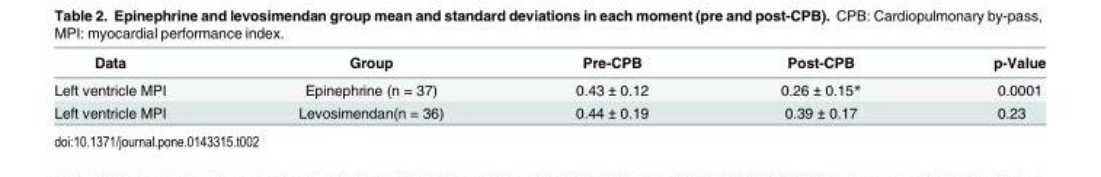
<table><thead><tr><td>Data</td><td>Group</td><td>Pre-CPB</td><td>Post-CPB</td><td>p-Value</td></tr></thead><tbody><tr><td>Left ventricle MPI</td><td>Epinephrine (n = 37)</td><td>0.43 ± 0.12</td><td>0.26 ± 0.15*</td><td>0.0001</td></tr><tr><td>Left ventricle MPI</td><td>Levosimendan(n = 36)</td><td>0.44 ± 0.19</td><td>0.39 ± 0.17</td><td>0.23</td></tr></tbody></table>